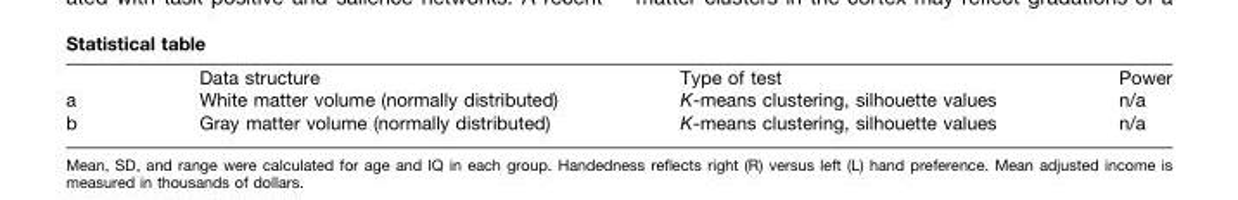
<table><thead><tr><td></td><td>Data structure</td><td>Type of test</td><td>Power</td></tr></thead><tbody><tr><td>a</td><td>White matter volume (normally distributed)</td><td>K-means clustering, silhouette values</td><td>n/a</td></tr><tr><td>b</td><td>Gray matter volume (normally distributed)</td><td>K-means clustering, silhouette values</td><td>n/a</td></tr></tbody></table>